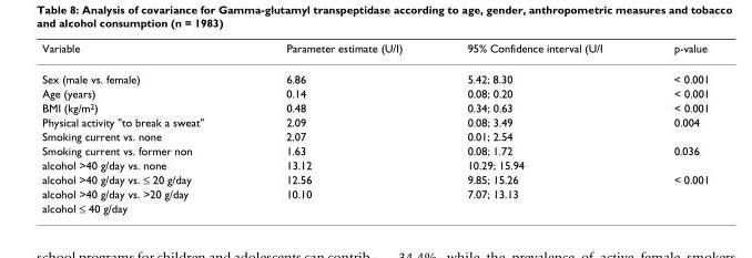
<table><thead><tr><td>Variable</td><td>Parameter estimate (U/I)</td><td>95% Confidence interval (U/I</td><td>p-value</td></tr></thead><tbody><tr><td>Sex (male vs. female)</td><td>6.86</td><td>5.42; 8.30</td><td>&lt; 0.001</td></tr><tr><td>Age (years)</td><td>0.14</td><td>0.08; 0.20</td><td>&lt; 0.001</td></tr><tr><td>BMI (kg/m2)</td><td>0.48</td><td>0.34; 0.63</td><td>&lt; 0.001</td></tr><tr><td>Physical activity &quot;to break a sweat&quot;</td><td>2.09</td><td>0.08; 3.49</td><td>0.004</td></tr><tr><td>Smoking current vs. none</td><td>2.07</td><td>0.01; 2.54</td><td></td></tr><tr><td>Smoking current vs. former non</td><td>1.63</td><td>0.08; 1.72</td><td>0.036</td></tr><tr><td>alcohol &gt;40 g/day vs. none</td><td>13.12</td><td>10.29; 15.94</td><td></td></tr><tr><td>alcohol &gt;40 g/day vs. ≤ 20 g/day</td><td>12.56</td><td>9.85; 15.26</td><td>&lt; 0.001</td></tr><tr><td>alcohol &gt;40 g/day vs. &gt;20 g/day</td><td>10.10</td><td>7.07; 13.13</td><td></td></tr><tr><td>alcohol ≤ 40 g/day</td><td></td><td></td><td></td></tr></tbody></table>